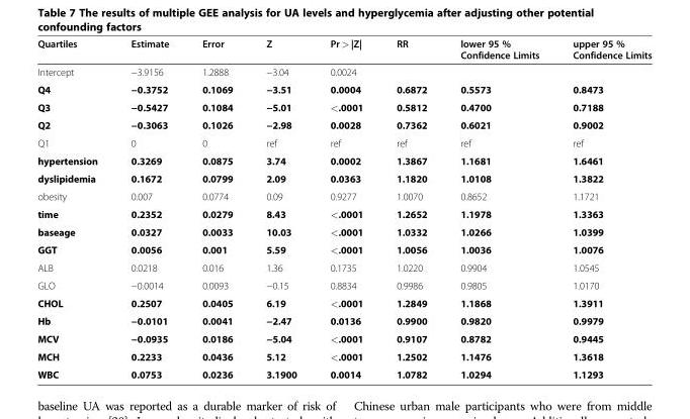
<table><thead><tr><td>Quartiles</td><td>Estimate</td><td>Error</td><td>Z</td><td>Pr &gt; |Z|</td><td>RR</td><td>lower 95 % Confidence Limits</td><td>upper 95 % Confidence Limits</td></tr></thead><tbody><tr><td>Intercept</td><td>−3.9156</td><td>1.2888</td><td>−3.04</td><td>0.0024</td><td></td><td></td><td></td></tr><tr><td>Q4</td><td>−0.3752</td><td>0.1069</td><td>−3.51</td><td>0.0004</td><td>0.6872</td><td>0.5573</td><td>0.8473</td></tr><tr><td>Q3</td><td>−0.5427</td><td>0.1084</td><td>−5.01</td><td>&lt;.0001</td><td>0.5812</td><td>0.4700</td><td>0.7188</td></tr><tr><td>Q2</td><td>−0.3063</td><td>0.1026</td><td>−2.98</td><td>0.0028</td><td>0.7362</td><td>0.6021</td><td>0.9002</td></tr><tr><td>Q1</td><td>0</td><td>0</td><td>ref</td><td>ref</td><td>ref</td><td>ref</td><td>ref</td></tr><tr><td>hypertension</td><td>0.3269</td><td>0.0875</td><td>3.74</td><td>0.0002</td><td>1.3867</td><td>1.1681</td><td>1.6461</td></tr><tr><td>dyslipidemia</td><td>0.1672</td><td>0.0799</td><td>2.09</td><td>0.0363</td><td>1.1820</td><td>1.0108</td><td>1.3822</td></tr><tr><td>obesity</td><td>0.007</td><td>0.0774</td><td>0.09</td><td>0.9277</td><td>1.0070</td><td>0.8652</td><td>1.1721</td></tr><tr><td>time</td><td>0.2352</td><td>0.0279</td><td>8.43</td><td>&lt;.0001</td><td>1.2652</td><td>1.1978</td><td>1.3363</td></tr><tr><td>baseage</td><td>0.0327</td><td>0.0033</td><td>10.03</td><td>&lt;.0001</td><td>1.0332</td><td>1.0266</td><td>1.0399</td></tr><tr><td>GGT</td><td>0.0056</td><td>0.001</td><td>5.59</td><td>&lt;.0001</td><td>1.0056</td><td>1.0036</td><td>1.0076</td></tr><tr><td>ALB</td><td>0.0218</td><td>0.016</td><td>1.36</td><td>0.1735</td><td>1.0220</td><td>0.9904</td><td>1.0545</td></tr><tr><td>GLO</td><td>−0.0014</td><td>0.0093</td><td>−0.15</td><td>0.8834</td><td>0.9986</td><td>0.9805</td><td>1.0170</td></tr><tr><td>CHOL</td><td>0.2507</td><td>0.0405</td><td>6.19</td><td>&lt;.0001</td><td>1.2849</td><td>1.1868</td><td>1.3911</td></tr><tr><td>Hb</td><td>−0.0101</td><td>0.0041</td><td>−2.47</td><td>0.0136</td><td>0.9900</td><td>0.9820</td><td>0.9979</td></tr><tr><td>MCV</td><td>−0.0935</td><td>0.0186</td><td>−5.04</td><td>&lt;.0001</td><td>0.9107</td><td>0.8782</td><td>0.9445</td></tr><tr><td>MCH</td><td>0.2233</td><td>0.0436</td><td>5.12</td><td>&lt;.0001</td><td>1.2502</td><td>1.1476</td><td>1.3618</td></tr><tr><td>WBC</td><td>0.0753</td><td>0.0236</td><td>3.1900</td><td>0.0014</td><td>1.0782</td><td>1.0294</td><td>1.1293</td></tr></tbody></table>